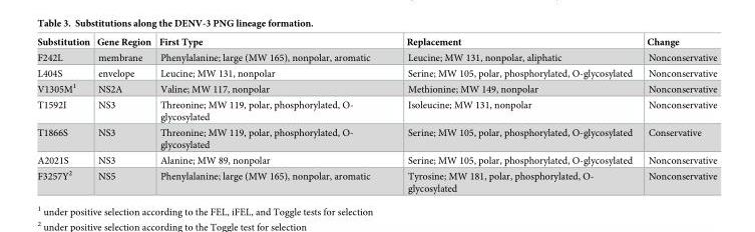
<table><thead><tr><td>Substitution</td><td>Gene Region</td><td>First Type</td><td>Replacement</td><td>Change</td></tr></thead><tbody><tr><td>F242L</td><td>membrane</td><td>Phenylalanine; large (MW 165), nonpolar, aromatic</td><td>Leucine; MW 131, nonpolar, aliphatic</td><td>Nonconservative</td></tr><tr><td>L404S</td><td>envelope</td><td>Leucine; MW 131, nonpolar</td><td>Serine; MW 105, polar, phosphorylated, O-glycosylated</td><td>Nonconservative</td></tr><tr><td>V1305M<sup>1</sup></td><td>NS2A</td><td>Valine; MW 117, nonpolar</td><td>Methionine; MW 149, nonpolar</td><td>Nonconservative</td></tr><tr><td>T1592I</td><td>NS3</td><td>Threonine; MW 119, polar, phosphorylated, O- glycosylated</td><td>Isoleucine; MW 131, nonpolar</td><td>Nonconservative</td></tr><tr><td>T1866S</td><td>NS3</td><td>Threonine; MW 119, polar, phosphorylated, O- glycosylated</td><td>Serine; MW 105, polar, phosphorylated, O-glycosylated</td><td>Conservative</td></tr><tr><td>A2021S</td><td>NS3</td><td>Alanine; MW 89, nonpolar</td><td>Serine; MW 105, polar, phosphorylated, O-glycosylated</td><td>Nonconservative</td></tr><tr><td>F3257Y<sup>2</sup></td><td>NS5</td><td>Phenylalanine; large (MW 165), nonpolar, aromatic</td><td>Tyrosine; MW 181, polar, phosphorylated, O- glycosylated</td><td>Nonconservative</td></tr></tbody></table>